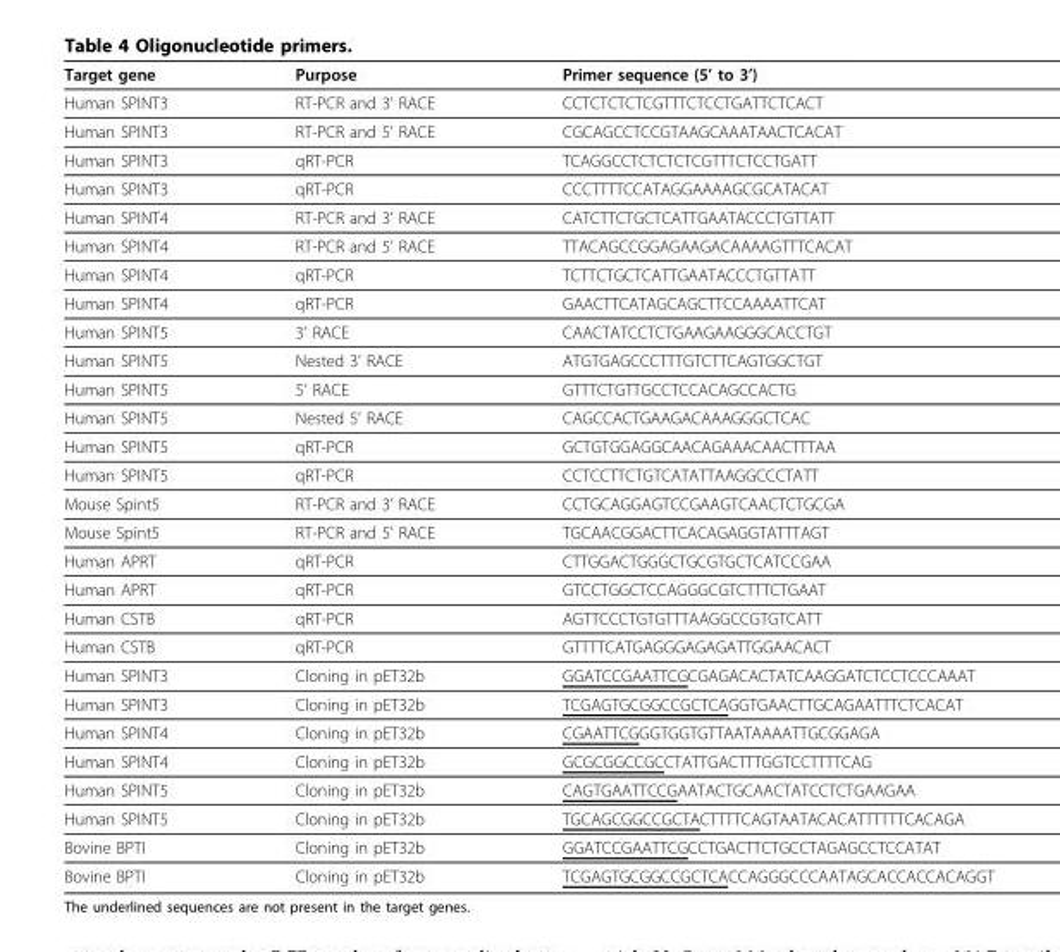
<table><thead><tr><td>Target gene</td><td>Purpose</td><td>Primer sequence (5’ to 3’)</td></tr></thead><tbody><tr><td>Human SPINT3</td><td>RT-PCR and 3’ RACE</td><td>CCTCTCTCTCGTTTCTCCTGATTCTCACT</td></tr><tr><td>Human SPINT3</td><td>RT-PCR and 5’ RACE</td><td>CGCAGCCTCCGTAAGCAAATAACTCACAT</td></tr><tr><td>Human SPINT3</td><td>qRT-PCR</td><td>TCAGGCCTCTCTCTCGTTTCTCCTGATT</td></tr><tr><td>Human SPINT3</td><td>qRT-PCR</td><td>CCCTTTTCCATAGGAAAAGCGCATACAT</td></tr><tr><td>Human SPINT4</td><td>RT-PCR and 3’ RACE</td><td>CATCTTCTGCTCATTGAATACCCTGTTATT</td></tr><tr><td>Human SPINT4</td><td>RT-PCR and 5’ RACE</td><td>TTACAGCCGGAGAAGACAAAAGTTTCACAT</td></tr><tr><td>Human SPINT4</td><td>qRT-PCR</td><td>TCTTCTGCTCATTGAATACCCTGTTATT</td></tr><tr><td>Human SPINT4</td><td>qRT-PCR</td><td>GAACTTCATAGCAGCTTCCAAAATTCAT</td></tr><tr><td>Human SPINT5</td><td>3’ RACE</td><td>CAACTATCCTCTGAAGAAGGGCACCTGT</td></tr><tr><td>Human SPINT5</td><td>Nested 3’ RACE</td><td>ATGTGAGCCCTTTGTCTTCAGTGGCTGT</td></tr><tr><td>Human SPINT5</td><td>5’ RACE</td><td>GTTTCTGTTGCCTCCACAGCCACTG</td></tr><tr><td>Human SPINT5</td><td>Nested 5’ RACE</td><td>CAGCCACTGAAGACAAAGGGCTCAC</td></tr><tr><td>Human SPINT5</td><td>qRT-PCR</td><td>GCTGTGGAGGCAACAGAAACAACTTTAA</td></tr><tr><td>Human SPINT5</td><td>qRT-PCR</td><td>CCTCCTTCTGTCATATTAAGGCCCTATT</td></tr><tr><td>Mouse Spint5</td><td>RT-PCR and 3’ RACE</td><td>CCTGCAGGAGTCCGAAGTCAACTCTGCGA</td></tr><tr><td>Mouse Spint5</td><td>RT-PCR and 5’ RACE</td><td>TGCAACGGACTTCACAGAGGTATTTAGT</td></tr><tr><td>Human APRT</td><td>qRT-PCR</td><td>CTTGGACTGGGCTGCGTGCTCATCCGAA</td></tr><tr><td>Human APRT</td><td>qRT-PCR</td><td>GTCCTGGCTCCAGGGCGTCTTTCTGAAT</td></tr><tr><td>Human CSTB</td><td>qRT-PCR</td><td>AGTTCCCTGTGTTTAAGGCCGTGTCATT</td></tr><tr><td>Human CSTB</td><td>qRT-PCR</td><td>GTTTTCATGAGGGAGAGATTGGAACACT</td></tr><tr><td>Human SPINT3</td><td>Cloning in pET32b</td><td>GGATCCGAATTCGCGAGACACTATCAAGGATCTCCTCCCAAAT</td></tr><tr><td>Human SPINT3</td><td>Cloning in pET32b</td><td>TCGAGTGCGGCCGCTCAGGTGAACTTGCAGAATTTCTCACAT</td></tr><tr><td>Human SPINT4</td><td>Cloning in pET32b</td><td>CGAATTCGGGTGGTGTTAATAAAATTGCGGAGA</td></tr><tr><td>Human SPINT4</td><td>Cloning in pET32b</td><td>GCGCGGCCGCCTATTGACTTTGGTCCTTTTCAG</td></tr><tr><td>Human SPINT5</td><td>Cloning in pET32b</td><td>CAGTGAATTCCGAATACTGCAACTATCCTCTGAAGAA</td></tr><tr><td>Human SPINT5</td><td>Cloning in pET32b</td><td>TGCAGCGGCCGCTACTTTTCAGTAATACACATTTTTTCACAGA</td></tr><tr><td>Bovine BPTI</td><td>Cloning in pET32b</td><td>GGATCCGAATTCGCCTGACTTCTGCCTAGAGCCTCCATAT</td></tr><tr><td>Bovine BPTI</td><td>Cloning in pET32b</td><td>TCGAGTGCGGCCGCTCACCAGGGCCCAATAGCACCACCACAGGT</td></tr></tbody></table>